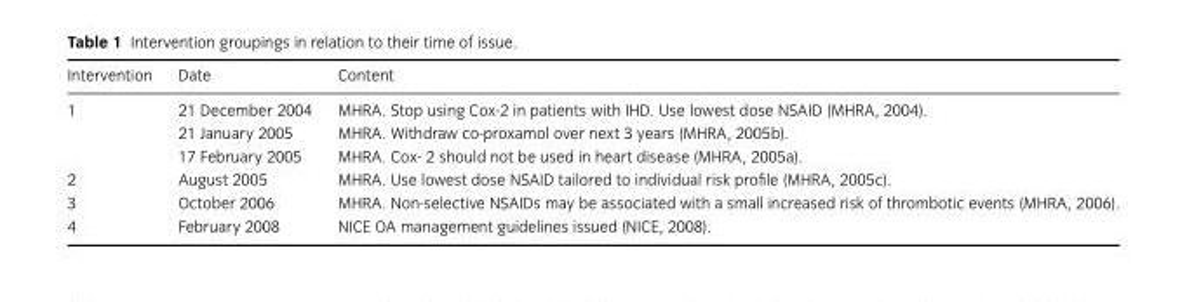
<table><thead><tr><td>Intervention</td><td>Date</td><td>Content</td></tr></thead><tbody><tr><td rowspan="3">1</td><td>21 December 2004</td><td>MHRA. Stop using Cox-2 in patients with IHD. Use lowest dose NSAID (MHRA, 2004).</td></tr><tr><td>21 January 2005</td><td>MHRA. Withdraw co-proxamol over next 3 years (MHRA, 2005b).</td></tr><tr><td>17 February 2005</td><td>MHRA. Cox- 2 should not be used in heart disease (MHRA, 2005a).</td></tr><tr><td>2</td><td>August 2005</td><td>MHRA. Use lowest dose NSAID tailored to individual risk profile (MHRA, 2005c).</td></tr><tr><td>3</td><td>October 2006</td><td>MHRA. Non-selective NSAIDs may be associated with a small increased risk of thrombotic events (MHRA, 2006).</td></tr><tr><td>4</td><td>February 2008</td><td>NICE OA management guidelines issued (NICE, 2008).</td></tr></tbody></table>